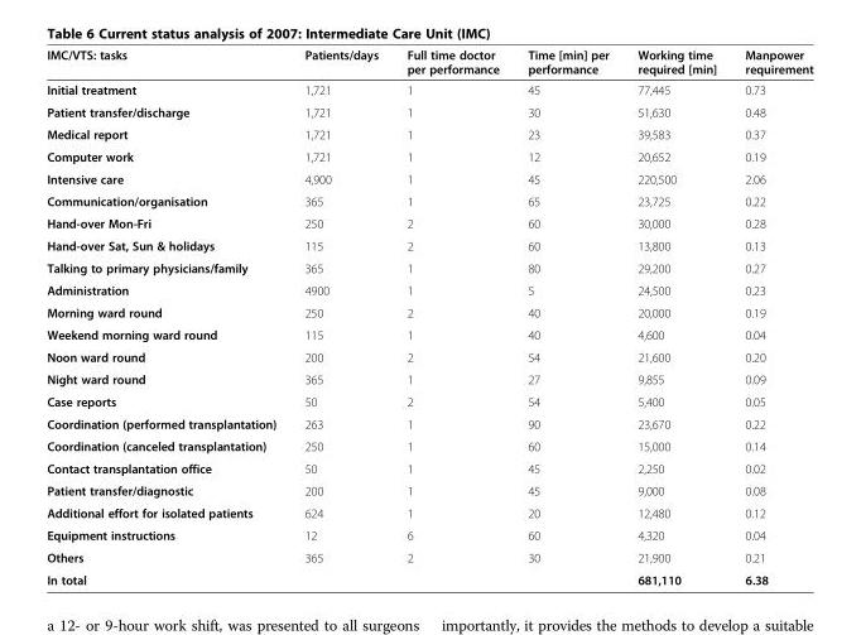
<table><thead><tr><td>IMC/VTS: tasks</td><td>Patients/days</td><td>Full time doctor per performance</td><td>Time [min] per performance</td><td>Working time required [min]</td><td>Manpower requirement</td></tr></thead><tbody><tr><td>Initial treatment</td><td>1,721</td><td>1</td><td>45</td><td>77,445</td><td>0.73</td></tr><tr><td>Patient transfer/discharge</td><td>1,721</td><td>1</td><td>30</td><td>51,630</td><td>0.48</td></tr><tr><td>Medical report</td><td>1,721</td><td>1</td><td>23</td><td>39,583</td><td>0.37</td></tr><tr><td>Computer work</td><td>1,721</td><td>1</td><td>12</td><td>20,652</td><td>0.19</td></tr><tr><td>Intensive care</td><td>4,900</td><td>1</td><td>45</td><td>220,500</td><td>2.06</td></tr><tr><td>Communication/organisation</td><td>365</td><td>1</td><td>65</td><td>23,725</td><td>0.22</td></tr><tr><td>Hand-over Mon-Fri</td><td>250</td><td>2</td><td>60</td><td>30,000</td><td>0.28</td></tr><tr><td>Hand-over Sat, Sun &amp; holidays</td><td>115</td><td>2</td><td>60</td><td>13,800</td><td>0.13</td></tr><tr><td>Talking to primary physicians/family</td><td>365</td><td>1</td><td>80</td><td>29,200</td><td>0.27</td></tr><tr><td>Administration</td><td>4900</td><td>1</td><td>5</td><td>24,500</td><td>0.23</td></tr><tr><td>Morning ward round</td><td>250</td><td>2</td><td>40</td><td>20,000</td><td>0.19</td></tr><tr><td>Weekend morning ward round</td><td>115</td><td>1</td><td>40</td><td>4,600</td><td>0.04</td></tr><tr><td>Noon ward round</td><td>200</td><td>2</td><td>54</td><td>21,600</td><td>0.20</td></tr><tr><td>Night ward round</td><td>365</td><td>1</td><td>27</td><td>9,855</td><td>0.09</td></tr><tr><td>Case reports</td><td>50</td><td>2</td><td>54</td><td>5,400</td><td>0.05</td></tr><tr><td>Coordination (performed transplantation)</td><td>263</td><td>1</td><td>90</td><td>23,670</td><td>0.22</td></tr><tr><td>Coordination (canceled transplantation)</td><td>250</td><td>1</td><td>60</td><td>15,000</td><td>0.14</td></tr><tr><td>Contact transplantation office</td><td>50</td><td>1</td><td>45</td><td>2,250</td><td>0.02</td></tr><tr><td>Patient transfer/diagnostic</td><td>200</td><td>1</td><td>45</td><td>9,000</td><td>0.08</td></tr><tr><td>Additional effort for isolated patients</td><td>624</td><td>1</td><td>20</td><td>12,480</td><td>0.12</td></tr><tr><td>Equipment instructions</td><td>12</td><td>6</td><td>60</td><td>4,320</td><td>0.04</td></tr><tr><td>Others</td><td>365</td><td>2</td><td>30</td><td>21,900</td><td>0.21</td></tr><tr><td colspan="4">In total</td><td>681,110</td><td>6.38</td></tr></tbody></table>